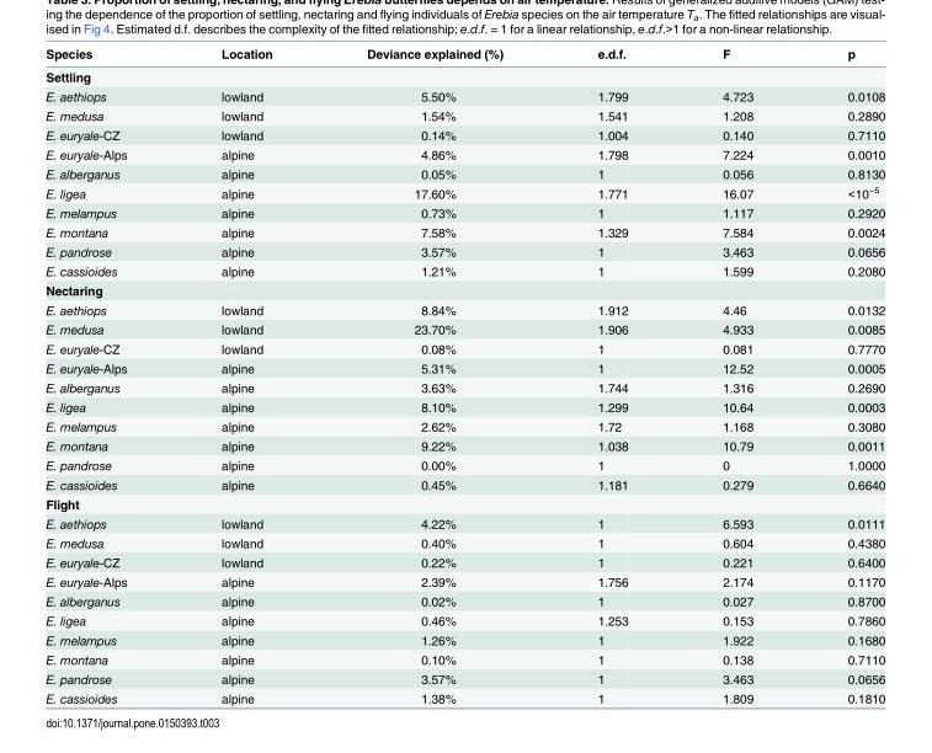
<table><thead><tr><td>Species</td><td>Location</td><td>Deviance explained (%)</td><td>e.d.f.</td><td>F</td><td>p</td></tr></thead><tbody><tr><td colspan="6">Settling</td></tr><tr><td>E. aethiops</td><td>lowland</td><td>5.50%</td><td>1.799</td><td>4.723</td><td>0.0108</td></tr><tr><td>E. medusa</td><td>lowland</td><td>1.54%</td><td>1.541</td><td>1.208</td><td>0.2890</td></tr><tr><td>E. euryale-CZ</td><td>lowland</td><td>0.14%</td><td>1.004</td><td>0.140</td><td>0.7110</td></tr><tr><td>E. euryale-Alps</td><td>alpine</td><td>4.86%</td><td>1.798</td><td>7.224</td><td>0.0010</td></tr><tr><td>E. alberganus</td><td>alpine</td><td>0.05%</td><td>1</td><td>0.056</td><td>0.8130</td></tr><tr><td>E. ligea</td><td>alpine</td><td>17.60%</td><td>1.771</td><td>16.07</td><td>&lt;10<sup>−5</sup></td></tr><tr><td>E. melampus</td><td>alpine</td><td>0.73%</td><td>1</td><td>1.117</td><td>0.2920</td></tr><tr><td>E. montana</td><td>alpine</td><td>7.58%</td><td>1.329</td><td>7.584</td><td>0.0024</td></tr><tr><td>E. pandrose</td><td>alpine</td><td>3.57%</td><td>1</td><td>3.463</td><td>0.0656</td></tr><tr><td>E. cassioides</td><td>alpine</td><td>1.21%</td><td>1</td><td>1.599</td><td>0.2080</td></tr><tr><td colspan="6">Nectaring</td></tr><tr><td>E. aethiops</td><td>lowland</td><td>8.84%</td><td>1.912</td><td>4.46</td><td>0.0132</td></tr><tr><td>E. medusa</td><td>lowland</td><td>23.70%</td><td>1.906</td><td>4.933</td><td>0.0085</td></tr><tr><td>E. euryale-CZ</td><td>lowland</td><td>0.08%</td><td>1</td><td>0.081</td><td>0.7770</td></tr><tr><td>E. euryale-Alps</td><td>alpine</td><td>5.31%</td><td>1</td><td>12.52</td><td>0.0005</td></tr><tr><td>E. alberganus</td><td>alpine</td><td>3.63%</td><td>1.744</td><td>1.316</td><td>0.2690</td></tr><tr><td>E. ligea</td><td>alpine</td><td>8.10%</td><td>1.299</td><td>10.64</td><td>0.0003</td></tr><tr><td>E. melampus</td><td>alpine</td><td>2.62%</td><td>1.72</td><td>1.168</td><td>0.3080</td></tr><tr><td>E. montana</td><td>alpine</td><td>9.22%</td><td>1.038</td><td>10.79</td><td>0.0011</td></tr><tr><td>E. pandrose</td><td>alpine</td><td>0.00%</td><td>1</td><td>0</td><td>1.0000</td></tr><tr><td>E. cassioides</td><td>alpine</td><td>0.45%</td><td>1.181</td><td>0.279</td><td>0.6640</td></tr><tr><td colspan="6">Flight</td></tr><tr><td>E. aethiops</td><td>lowland</td><td>4.22%</td><td>1</td><td>6.593</td><td>0.0111</td></tr><tr><td>E. medusa</td><td>lowland</td><td>0.40%</td><td>1</td><td>0.604</td><td>0.4380</td></tr><tr><td>E. euryale-CZ</td><td>lowland</td><td>0.22%</td><td>1</td><td>0.221</td><td>0.6400</td></tr><tr><td>E. euryale-Alps</td><td>alpine</td><td>2.39%</td><td>1.756</td><td>2.174</td><td>0.1170</td></tr><tr><td>E. alberganus</td><td>alpine</td><td>0.02%</td><td>1</td><td>0.027</td><td>0.8700</td></tr><tr><td>E. ligea</td><td>alpine</td><td>0.46%</td><td>1.253</td><td>0.153</td><td>0.7860</td></tr><tr><td>E. melampus</td><td>alpine</td><td>1.26%</td><td>1</td><td>1.922</td><td>0.1680</td></tr><tr><td>E. montana</td><td>alpine</td><td>0.10%</td><td>1</td><td>0.138</td><td>0.7110</td></tr><tr><td>E. pandrose</td><td>alpine</td><td>3.57%</td><td>1</td><td>3.463</td><td>0.0656</td></tr><tr><td>E. cassioides</td><td>alpine</td><td>1.38%</td><td>1</td><td>1.809</td><td>0.1810</td></tr></tbody></table>